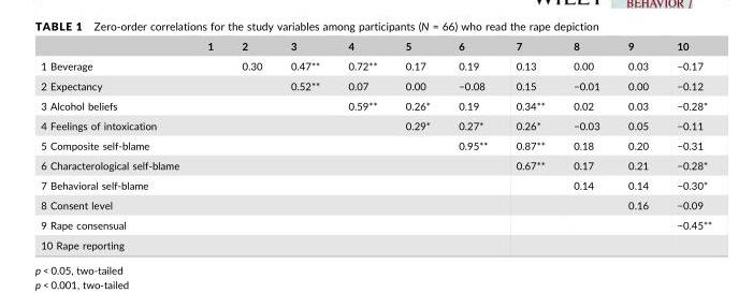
<table><thead><tr><td></td><td>1</td><td>2</td><td>3</td><td>4</td><td>5</td><td>6</td><td>7</td><td>8</td><td>9</td><td>10</td></tr></thead><tbody><tr><td>1 Beverage</td><td></td><td>0.30</td><td>0.47**</td><td>0.72**</td><td>0.17</td><td>0.19</td><td>0.13</td><td>0.00</td><td>0.03</td><td>−0.17</td></tr><tr><td>2 Expectancy</td><td></td><td></td><td>0.52**</td><td>0.07</td><td>0.00</td><td>−0.08</td><td>0.15</td><td>−0.01</td><td>0.00</td><td>−0.12</td></tr><tr><td>3 Alcohol beliefs</td><td></td><td></td><td></td><td>0.59**</td><td>0.26*</td><td>0.19</td><td>0.34**</td><td>0.02</td><td>0.03</td><td>−0.28*</td></tr><tr><td>4 Feelings of intoxication</td><td></td><td></td><td></td><td></td><td>0.29*</td><td>0.27*</td><td>0.26*</td><td>−0.03</td><td>0.05</td><td>−0.11</td></tr><tr><td>5 Composite self-blame</td><td></td><td></td><td></td><td></td><td></td><td>0.95**</td><td>0.87**</td><td>0.18</td><td>0.20</td><td>−0.31</td></tr><tr><td>6 Characterological self-blame</td><td></td><td></td><td></td><td></td><td></td><td></td><td>0.67**</td><td>0.17</td><td>0.21</td><td>−0.28*</td></tr><tr><td>7 Behavioral self-blame</td><td></td><td></td><td></td><td></td><td></td><td></td><td></td><td>0.14</td><td>0.14</td><td>−0.30*</td></tr><tr><td>8 Consent level</td><td></td><td></td><td></td><td></td><td></td><td></td><td></td><td></td><td>0.16</td><td>−0.09</td></tr><tr><td>9 Rape consensual</td><td></td><td></td><td></td><td></td><td></td><td></td><td></td><td></td><td></td><td>−0.45**</td></tr><tr><td>10 Rape reporting</td><td></td><td></td><td></td><td></td><td></td><td></td><td></td><td></td><td></td><td></td></tr></tbody></table>